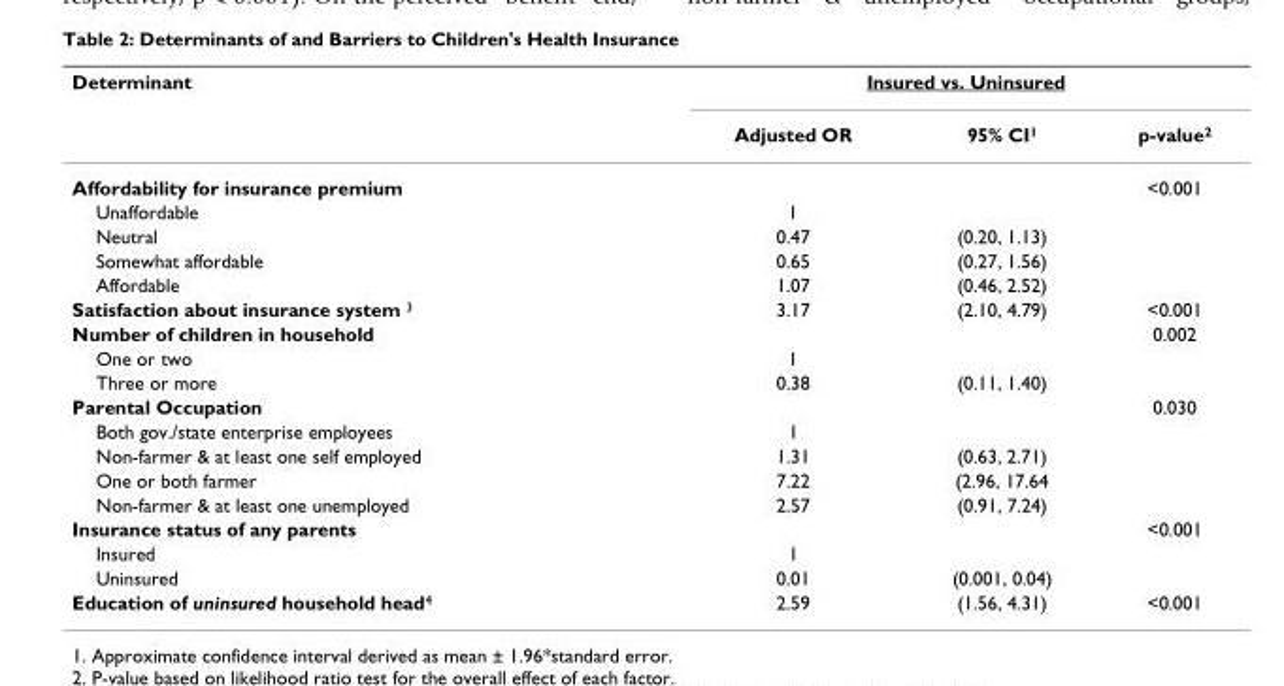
<table><thead><tr><td rowspan="2">Determinant</td><td colspan="3">Insured vs. Uninsured</td></tr><tr><td>Adjusted OR</td><td>95% CI<sup>1</sup></td><td>p-value<sup>2</sup></td></tr></thead><tbody><tr><td>Affordability for insurance premium</td><td></td><td></td><td>&lt;0.001</td></tr><tr><td>Unaffordable</td><td>1</td><td></td><td></td></tr><tr><td>Neutral</td><td>0.47</td><td>(0.20, 1.13)</td><td></td></tr><tr><td>Somewhat affordable</td><td>0.65</td><td>(0.27, 1.56)</td><td></td></tr><tr><td>Affordable</td><td>1.07</td><td>(0.46, 2.52)</td><td></td></tr><tr><td>Satisfaction about insurance system <sup>3</sup></td><td>3.17</td><td>(2.10, 4.79)</td><td>&lt;0.001</td></tr><tr><td>Number of children in household</td><td></td><td></td><td>0.002</td></tr><tr><td>One or two</td><td>1</td><td></td><td></td></tr><tr><td>Three or more</td><td>0.38</td><td>(0.11, 1.40)</td><td></td></tr><tr><td>Parental Occupation</td><td></td><td></td><td>0.030</td></tr><tr><td>Both gov./state enterprise employees</td><td>1</td><td></td><td></td></tr><tr><td>Non-farmer &amp; at least one self employed</td><td>1.31</td><td>(0.63, 2.71)</td><td></td></tr><tr><td>One or both farmer</td><td>7.22</td><td>(2.96, 17.64</td><td></td></tr><tr><td>Non-farmer &amp; at least one unemployed</td><td>2.57</td><td>(0.91, 7.24)</td><td></td></tr><tr><td>Insurance status of any parents</td><td></td><td></td><td>&lt;0.001</td></tr><tr><td>Insured</td><td>1</td><td></td><td></td></tr><tr><td>Uninsured</td><td>0.01</td><td>(0.001, 0.04)</td><td></td></tr><tr><td>Education of uninsured household head<sup>4</sup></td><td>2.59</td><td>(1.56, 4.31)</td><td>&lt;0.001</td></tr></tbody></table>